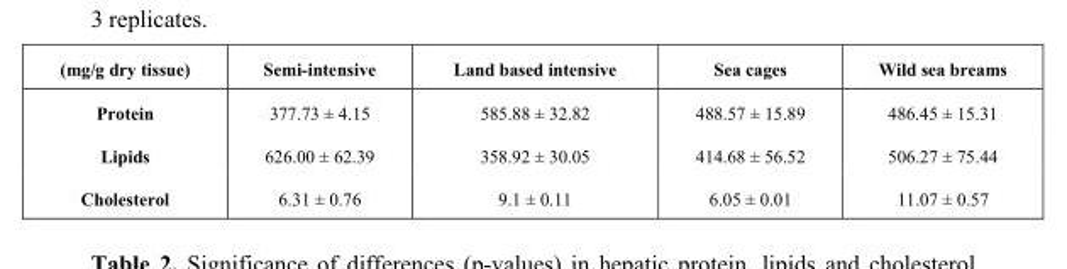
<table><thead><tr><td>(mg/g dry tissue)</td><td>Semi-intensive</td><td>Land based intensive</td><td>Sea cages</td><td>Wild sea breams</td></tr></thead><tbody><tr><td>Protein</td><td>377.73 ± 4.15</td><td>585.88 ± 32.82</td><td>488.57 ± 15.89</td><td>486.45 ± 15.31</td></tr><tr><td>Lipids</td><td>626.00 ± 62.39</td><td>358.92 ± 30.05</td><td>414.68 ± 56.52</td><td>506.27 ± 75.44</td></tr><tr><td>Cholesterol</td><td>6.31 ± 0.76</td><td>9.1 ± 0.11</td><td>6.05 ± 0.01</td><td>11.07 ± 0.57</td></tr></tbody></table>